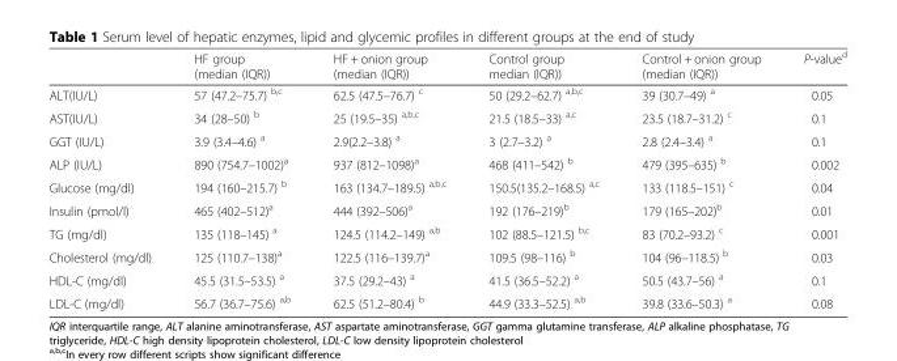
<table><thead><tr><td></td><td>HF group (median (IQR))</td><td>HF + onion group (median (IQR))</td><td>Control group median (IQR))</td><td>Control + onion group (median (IQR))</td><td>P-value<sup>d</sup></td></tr></thead><tbody><tr><td>ALT(IU/L)</td><td>57 (47.2–75.7) <sup>b,c</sup></td><td>62.5 (47.5–76.7) <sup>c</sup></td><td>50 (29.2–62.7) <sup>a,b,c</sup></td><td>39 (30.7–49) <sup>a</sup></td><td>0.05</td></tr><tr><td>AST(IU/L)</td><td>34 (28–50) <sup>b</sup></td><td>25 (19.5–35) <sup>a,b,c</sup></td><td>21.5 (18.5–33) <sup>a,c</sup></td><td>23.5 (18.7–31.2) <sup>c</sup></td><td>0.1</td></tr><tr><td>GGT (IU/L)</td><td>3.9 (3.4–4.6) <sup>a</sup></td><td>2.9(2.2–3.8) <sup>a</sup></td><td>3 (2.7–3.2) <sup>a</sup></td><td>2.8 (2.4–3.4) <sup>a</sup></td><td>0.1</td></tr><tr><td>ALP (IU/L)</td><td>890 (754.7–1002)<sup>a</sup></td><td>937 (812–1098)<sup>a</sup></td><td>468 (411–542) <sup>b</sup></td><td>479 (395–635) <sup>b</sup></td><td>0.002</td></tr><tr><td>Glucose (mg/dl)</td><td>194 (160–215.7) <sup>b</sup></td><td>163 (134.7–189.5) <sup>a,b,c</sup></td><td>150.5(135.2–168.5) <sup>a,c</sup></td><td>133 (118.5–151) <sup>c</sup></td><td>0.04</td></tr><tr><td>Insulin (pmol/l)</td><td>465 (402–512)<sup>a</sup></td><td>444 (392–506)<sup>a</sup></td><td>192 (176–219)<sup>b</sup></td><td>179 (165–202)<sup>b</sup></td><td>0.01</td></tr><tr><td>TG (mg/dl)</td><td>135 (118–145) <sup>a</sup></td><td>124.5 (114.2–149) <sup>a,b</sup></td><td>102 (88.5–121.5) <sup>b,c</sup></td><td>83 (70.2–93.2) <sup>c</sup></td><td>0.001</td></tr><tr><td>Cholesterol (mg/dl)</td><td>125 (110.7–138)<sup>a</sup></td><td>122.5 (116–139.7)<sup>a</sup></td><td>109.5 (98–116) <sup>b</sup></td><td>104 (96–118.5) <sup>b</sup></td><td>0.03</td></tr><tr><td>HDL-C (mg/dl)</td><td>45.5 (31.5–53.5) <sup>a</sup></td><td>37.5 (29.2–43) <sup>a</sup></td><td>41.5 (36.5–52.2) <sup>a</sup></td><td>50.5 (43.7–56) <sup>a</sup></td><td>0.1</td></tr><tr><td>LDL-C (mg/dl)</td><td>56.7 (36.7–75.6) <sup>a,b</sup></td><td>62.5 (51.2–80.4) <sup>b</sup></td><td>44.9 (33.3–52.5) <sup>a,b</sup></td><td>39.8 (33.6–50.3) <sup>a</sup></td><td>0.08</td></tr></tbody></table>